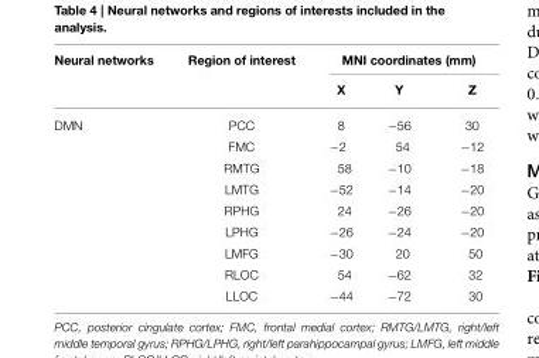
<table><thead><tr><td rowspan="2">Neural networks</td><td rowspan="2">Region of interest</td><td colspan="3">MNI coordinates (mm)</td></tr><tr><td>X</td><td>Y</td><td>Z</td></tr></thead><tbody><tr><td rowspan="9">DMN</td><td>PCC</td><td>8</td><td>−56</td><td>30</td></tr><tr><td>FMC</td><td>−2</td><td>54</td><td>−12</td></tr><tr><td>RMTG</td><td>58</td><td>−10</td><td>−18</td></tr><tr><td>LMTG</td><td>−52</td><td>−14</td><td>−20</td></tr><tr><td>RPHG</td><td>24</td><td>−26</td><td>−20</td></tr><tr><td>LPHG</td><td>−26</td><td>−24</td><td>−20</td></tr><tr><td>LMFG</td><td>−30</td><td>20</td><td>50</td></tr><tr><td>RLOC</td><td>54</td><td>−62</td><td>32</td></tr><tr><td>LLOC</td><td>−44</td><td>−72</td><td>30</td></tr></tbody></table>